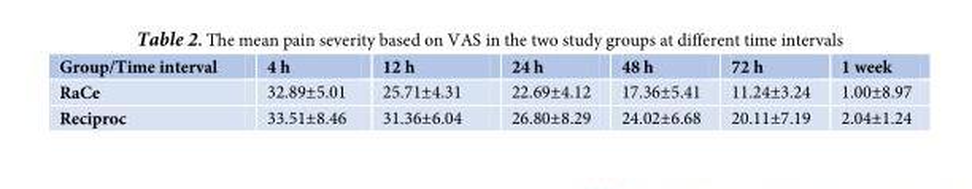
<table><thead><tr><td>Group/Time interval</td><td>4 h</td><td>12 h</td><td>24 h</td><td>48 h</td><td>72 h</td><td>1 week</td></tr></thead><tbody><tr><td>RaCe</td><td>32.89±5.01</td><td>25.71±4.31</td><td>22.69±4.12</td><td>17.36±5.41</td><td>11.24±3.24</td><td>1.00±8.97</td></tr><tr><td>Reciproc</td><td>33.51±8.46</td><td>31.36±6.04</td><td>26.80±8.29</td><td>24.02±6.68</td><td>20.11±7.19</td><td>2.04±1.24</td></tr></tbody></table>